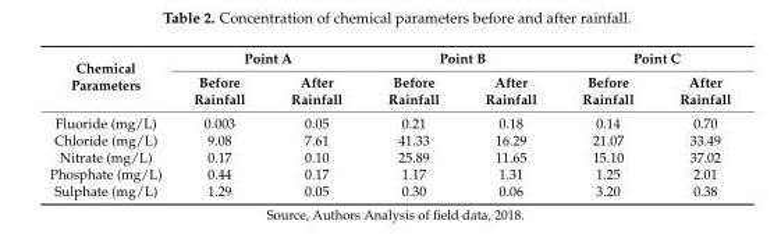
<table><thead><tr><td rowspan="2">Chemical Parameters</td><td colspan="2">Point A</td><td colspan="2">Point B</td><td colspan="2">Point C</td></tr><tr><td>Before Rainfall</td><td>After Rainfall</td><td>Before Rainfall</td><td>After Rainfall</td><td>Before Rainfall</td><td>After Rainfall</td></tr></thead><tbody><tr><td>Fluoride (mg/L)</td><td>0.003</td><td>0.05</td><td>0.21</td><td>0.18</td><td>0.14</td><td>0.70</td></tr><tr><td>Chloride (mg/L)</td><td>9.08</td><td>7.61</td><td>41.33</td><td>16.29</td><td>21.07</td><td>33.49</td></tr><tr><td>Nitrate (mg/L)</td><td>0.17</td><td>0.10</td><td>25.89</td><td>11.65</td><td>15.10</td><td>37.02</td></tr><tr><td>Phosphate (mg/L)</td><td>0.44</td><td>0.17</td><td>1.17</td><td>1.31</td><td>1.25</td><td>2.01</td></tr><tr><td>Sulphate (mg/L)</td><td>1.29</td><td>0.05</td><td>0.30</td><td>0.06</td><td>3.20</td><td>0.38</td></tr></tbody></table>